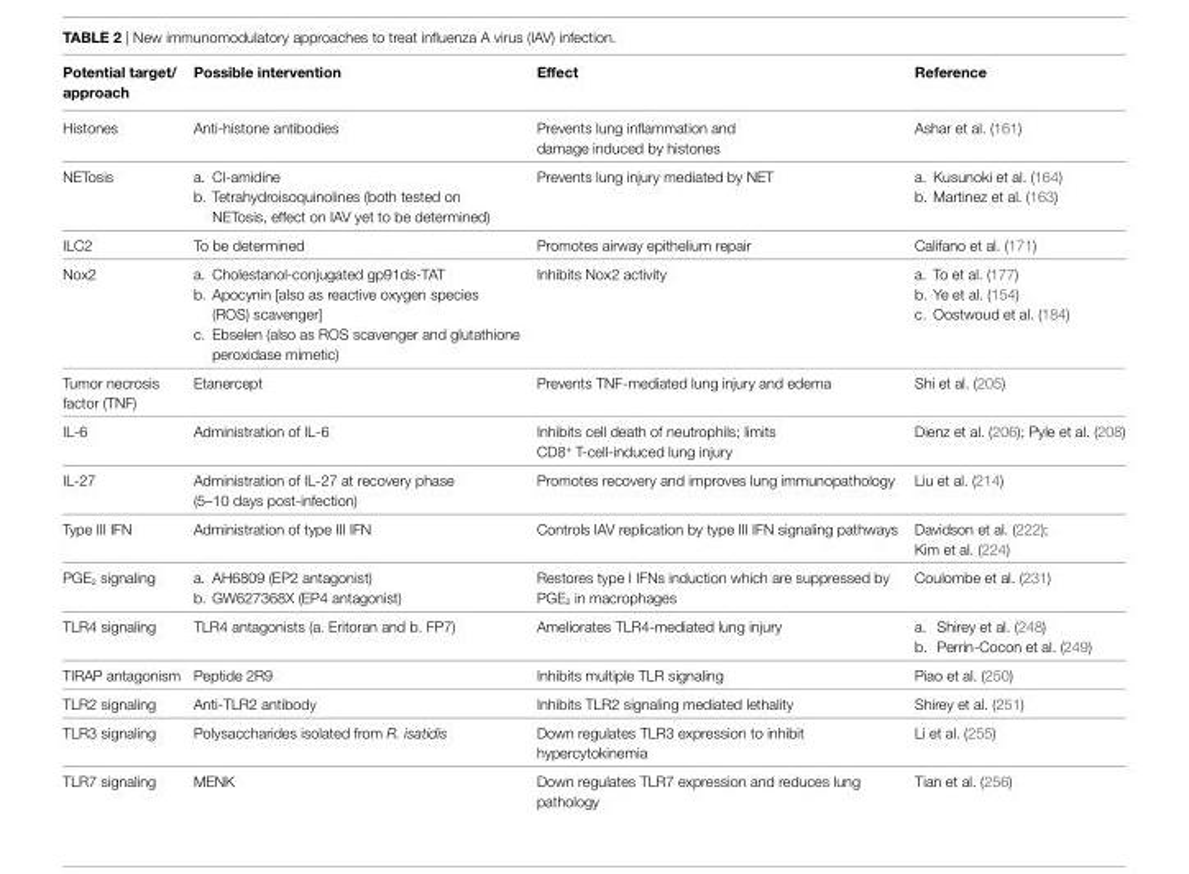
<table><thead><tr><td>Potential target/ approach</td><td>Possible intervention</td><td>effect</td><td>Reference</td></tr></thead><tbody><tr><td>Histones</td><td>Anti-histone antibodies</td><td>Prevents lung inflammation and damage induced by histones</td><td>Ashar et al. (161)</td></tr><tr><td>NETosis</td><td>a. Cl-amidine b. Tetrahydroisoquinolines (both tested on NETosis, effect on IAV yet to be determined)</td><td>Prevents lung injury mediated by NET</td><td>a. Kusunoki et al. (164) b. Martinez et al. (163)</td></tr><tr><td>ILC2</td><td>To be determined</td><td>Promotes airway epithelium repair</td><td>Califano et al. (171)</td></tr><tr><td>Nox2</td><td>a. Cholestanol-conjugated gp91ds-TAT b. Apocynin [also as reactive oxygen species (ROS) scavenger] c. Ebselen (also as ROS scavenger and glutathione peroxidase mimetic)</td><td>Inhibits Nox2 activity</td><td>a. To et al. (177) b. Ye et al. (154) c. Oostwoud et al. (184)</td></tr><tr><td>Tumor necrosis factor (TNF)</td><td>Etanercept</td><td>Prevents TNF-mediated lung injury and edema</td><td>Shi et al. (205)</td></tr><tr><td>IL-6</td><td>Administration of IL-6</td><td>Inhibits cell death of neutrophils; limits CD8<sup>+</sup> T-cell-induced lung injury</td><td>Dienz et al. (206); Pyle et al. (208)</td></tr><tr><td>IL-27</td><td>Administration of IL-27 at recovery phase (5–10 days post-infection)</td><td>Promotes recovery and improves lung immunopathology</td><td>Liu et al. (214)</td></tr><tr><td>Type III IFN</td><td>Administration of type III IFN</td><td>Controls IAV replication by type III IFN signaling pathways</td><td>Davidson et al. (222); Kim et al. (224)</td></tr><tr><td>PGE<sub>2</sub> signaling</td><td>a. AH6809 (EP2 antagonist) b. GW627368X (EP4 antagonist)</td><td>Restores type I IFNs induction which are suppressed by PGE<sub>2</sub> in macrophages</td><td>Coulombe et al. (231)</td></tr><tr><td>TLR4 signaling</td><td>TLR4 antagonists (a. Eritoran and b. FP7)</td><td>Ameliorates TLR4-mediated lung injury</td><td>a. Shirey et al. (248) b. Perrin-Cocon et al. (249)</td></tr><tr><td>TIRAP antagonism</td><td>Peptide 2R9</td><td>Inhibits multiple TLR signaling</td><td>Piao et al. (250)</td></tr><tr><td>TLR2 signaling</td><td>Anti-TLR2 antibody</td><td>Inhibits TLR2 signaling mediated lethality</td><td>Shirey et al. (251)</td></tr><tr><td>TLR3 signaling</td><td>Polysaccharides isolated from R. isatidis</td><td>Down regulates TLR3 expression to inhibit hypercytokinemia</td><td>Li et al. (255)</td></tr><tr><td>TLR7 signaling</td><td>MENK</td><td>Down regulates TLR7 expression and reduces lung pathology</td><td>Tian et al. (256)</td></tr></tbody></table>